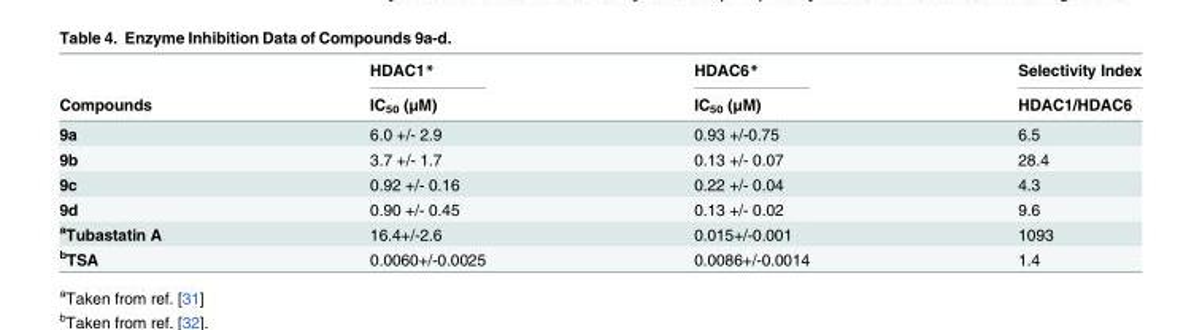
<table><thead><tr><td rowspan="2">Compounds</td><td rowspan="2">HDAC1* IC<sub>50</sub> (μM)</td><td rowspan="2">HDAC6* IC<sub>50</sub> (μM)</td><td rowspan="2">Selectivity Index HDAC1/HDAC6</td></tr><tr></tr></thead><tbody><tr><td>9a</td><td>6.0 +/- 2.9</td><td>0.93 +/-0.75</td><td>6.5</td></tr><tr><td>9b</td><td>3.7 +/- 1.7</td><td>0.13 +/- 0.07</td><td>28.4</td></tr><tr><td>9c</td><td>0.92 +/- 0.16</td><td>0.22 +/- 0.04</td><td>4.3</td></tr><tr><td>9d</td><td>0.90 +/- 0.45</td><td>0.13 +/- 0.02</td><td>9.6</td></tr><tr><td><sup>a</sup>Tubastatin A</td><td>16.4+/-2.6</td><td>0.015+/-0.001</td><td>1093</td></tr><tr><td><sup>b</sup>TSA</td><td>0.0060+/-0.0025</td><td>0.0086+/-0.0014</td><td>1.4</td></tr></tbody></table>